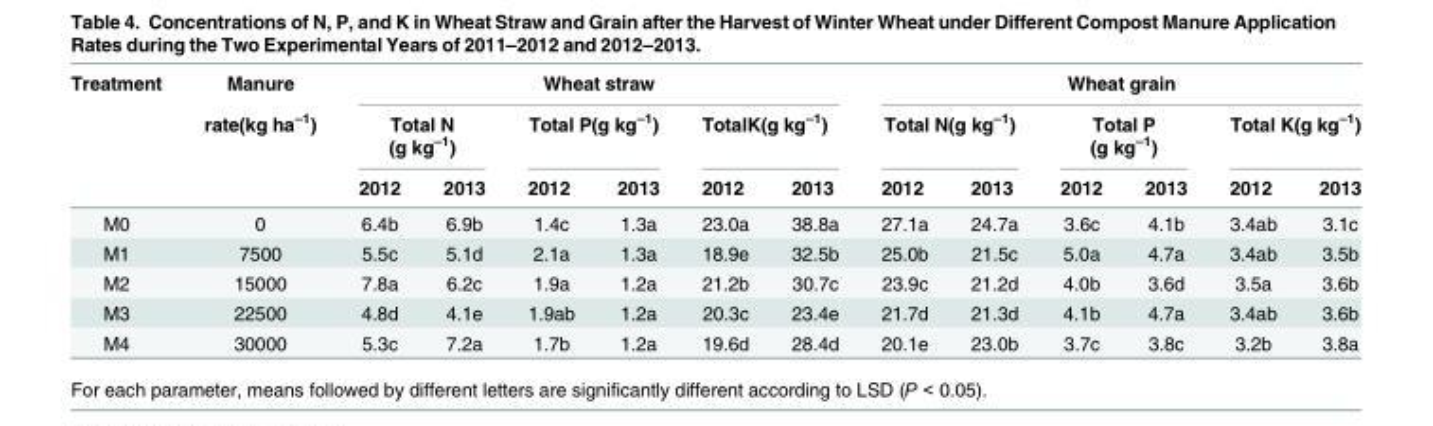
<table><thead><tr><td rowspan="3">Treatment</td><td rowspan="3">Manure rate(kg ha<sup>–1</sup>)</td><td colspan="6">Wheat straw</td><td colspan="6">Wheat grain</td></tr><tr><td colspan="2">Total N (g kg<sup>–1</sup>)</td><td colspan="2">Total P(g kg<sup>–1</sup>)</td><td colspan="2">TotalK(g kg<sup>–1</sup>)</td><td colspan="2">Total N(g kg<sup>–1</sup>)</td><td colspan="2">Total P (g kg<sup>–1</sup>)</td><td colspan="2">Total K(g kg<sup>–1</sup>)</td></tr><tr><td>2012</td><td>2013</td><td>2012</td><td>2013</td><td>2012</td><td>2013</td><td>2012</td><td>2013</td><td>2012</td><td>2013</td><td>2012</td><td>2013</td></tr></thead><tbody><tr><td>M0</td><td>0</td><td>6.4b</td><td>6.9b</td><td>1.4c</td><td>1.3a</td><td>23.0a</td><td>38.8a</td><td>27.1a</td><td>24.7a</td><td>3.6c</td><td>4.1b</td><td>3.4ab</td><td>3.1c</td></tr><tr><td>M1</td><td>7500</td><td>5.5c</td><td>5.1d</td><td>2.1a</td><td>1.3a</td><td>18.9e</td><td>32.5b</td><td>25.0b</td><td>21.5c</td><td>5.0a</td><td>4.7a</td><td>3.4ab</td><td>3.5b</td></tr><tr><td>M2</td><td>15000</td><td>7.8a</td><td>6.2c</td><td>1.9a</td><td>1.2a</td><td>21.2b</td><td>30.7c</td><td>23.9c</td><td>21.2d</td><td>4.0b</td><td>3.6d</td><td>3.5a</td><td>3.6b</td></tr><tr><td>M3</td><td>22500</td><td>4.8d</td><td>4.1e</td><td>1.9ab</td><td>1.2a</td><td>20.3c</td><td>23.4e</td><td>21.7d</td><td>21.3d</td><td>4.1b</td><td>4.7a</td><td>3.4ab</td><td>3.6b</td></tr><tr><td>M4</td><td>30000</td><td>5.3c</td><td>7.2a</td><td>1.7b</td><td>1.2a</td><td>19.6d</td><td>28.4d</td><td>20.1e</td><td>23.0b</td><td>3.7c</td><td>3.8c</td><td>3.2b</td><td>3.8a</td></tr></tbody></table>